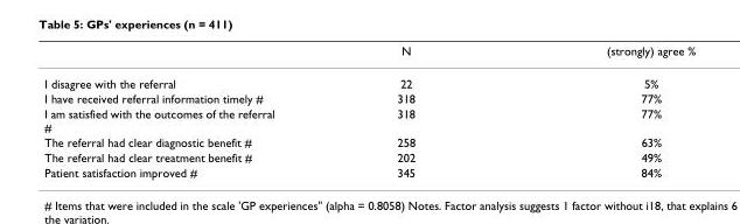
<table><thead><tr><td></td><td>N</td><td>(strongly) agree %</td></tr></thead><tbody><tr><td>I disagree with the referral</td><td>22</td><td>5%</td></tr><tr><td>I have received referral information timely #</td><td>318</td><td>77%</td></tr><tr><td>I am satisfied with the outcomes of the referral #</td><td>318</td><td>77%</td></tr><tr><td>The referral had clear diagnostic benefit #</td><td>258</td><td>63%</td></tr><tr><td>The referral had clear treatment benefit #</td><td>202</td><td>49%</td></tr><tr><td>Patient satisfaction improved #</td><td>345</td><td>84%</td></tr></tbody></table>